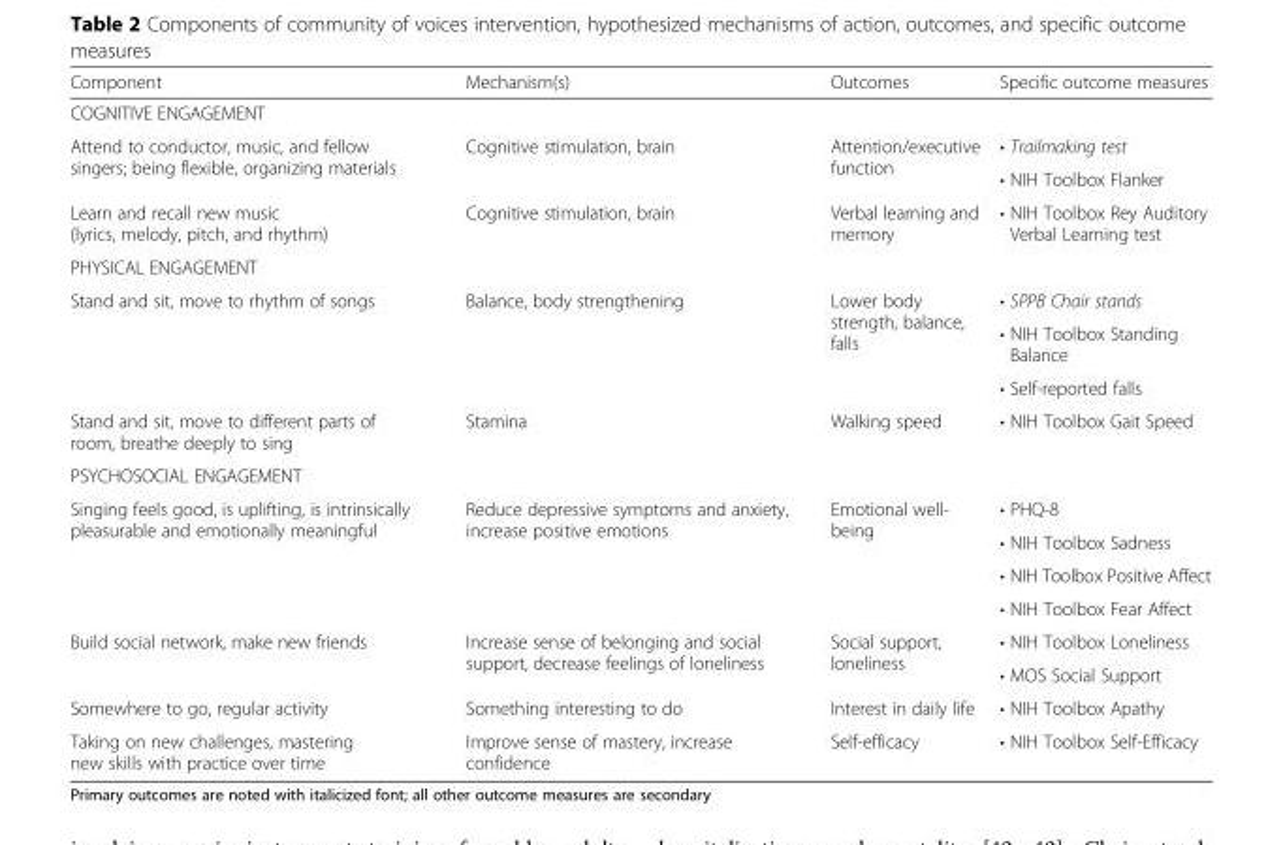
<table><thead><tr><td>Component</td><td>Mechanism(s)</td><td>Outcomes</td><td>Specific outcome measures</td></tr></thead><tbody><tr><td colspan="4">COGNITIVE ENGAGEMENT</td></tr><tr><td rowspan="2">Attend to conductor, music, and fellow singers; being flexible, organizing materials</td><td rowspan="2">Cognitive stimulation, brain</td><td rowspan="2">Attention/executive function</td><td>• Trailmaking test</td></tr><tr><td>• NIH Toolbox Flanker</td></tr><tr><td>Learn and recall new music (lyrics, melody, pitch, and rhythm)</td><td>Cognitive stimulation, brain</td><td>Verbal learning and memory</td><td>• NIH Toolbox Rey Auditory Verbal Learning test</td></tr><tr><td colspan="4">PHYSICAL ENGAGEMENT</td></tr><tr><td rowspan="3">Stand and sit, move to rhythm of songs</td><td rowspan="3">Balance, body strengthening</td><td rowspan="3">Lower body strength, balance, falls</td><td>• SPPB Chair stands</td></tr><tr><td>• NIH Toolbox Standing Balance</td></tr><tr><td>• Self-reported falls</td></tr><tr><td>Stand and sit, move to different parts of room, breathe deeply to sing</td><td>Stamina</td><td>Walking speed</td><td>• NIH Toolbox Gait Speed</td></tr><tr><td colspan="4">PSYCHOSOCIAL ENGAGEMENT</td></tr><tr><td rowspan="4">Singing feels good, is uplifting, is intrinsically pleasurable and emotionally meaningful</td><td rowspan="4">Reduce depressive symptoms and anxiety, increase positive emotions</td><td rowspan="4">Emotional well- being</td><td>• PHQ-8</td></tr><tr><td>• NIH Toolbox Sadness</td></tr><tr><td>• NIH Toolbox Positive Affect</td></tr><tr><td>• NIH Toolbox Fear Affect</td></tr><tr><td rowspan="2">Build social network, make new friends</td><td rowspan="2">Increase sense of belonging and social support, decrease feelings of loneliness</td><td rowspan="2">Social support, loneliness</td><td>• NIH Toolbox Loneliness</td></tr><tr><td>• MOS Social Support</td></tr><tr><td>Somewhere to go, regular activity</td><td>Something interesting to do</td><td>Interest in daily life</td><td>• NIH Toolbox Apathy</td></tr><tr><td>Taking on new challenges, mastering new skills with practice over time</td><td>Improve sense of mastery, increase confidence</td><td>Self-efficacy</td><td>• NIH Toolbox Self-Efficacy</td></tr></tbody></table>